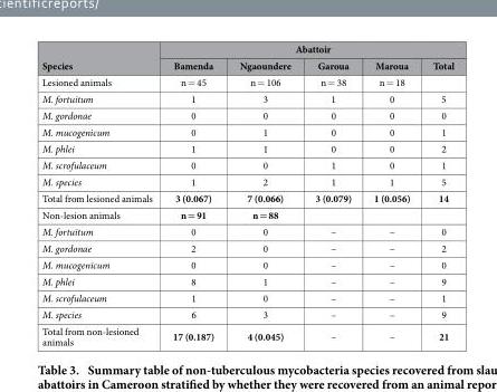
<table><thead><tr><td rowspan="2">Species</td><td colspan="5">Abattoir</td></tr><tr><td>Bamenda</td><td>Ngaoundere</td><td>Garoua</td><td>Maroua</td><td>Total</td></tr></thead><tbody><tr><td>Lesioned animals</td><td>n = 45</td><td>n = 106</td><td>n = 38</td><td>n = 18</td><td></td></tr><tr><td>M. fortuitum</td><td>1</td><td>3</td><td>1</td><td>0</td><td>5</td></tr><tr><td>M. gordonae</td><td>0</td><td>0</td><td>0</td><td>0</td><td>0</td></tr><tr><td>M. mucogenicum</td><td>0</td><td>1</td><td>0</td><td>0</td><td>1</td></tr><tr><td>M. phlei</td><td>1</td><td>1</td><td>0</td><td>0</td><td>2</td></tr><tr><td>M. scrofulaceum</td><td>0</td><td>0</td><td>1</td><td>0</td><td>1</td></tr><tr><td>M. species</td><td>1</td><td>2</td><td>1</td><td>1</td><td>5</td></tr><tr><td>Total from lesioned animals</td><td>3 (0.067)</td><td>7 (0.066)</td><td>3 (0.079)</td><td>1 (0.056)</td><td>14</td></tr><tr><td>Non-lesion animals</td><td>n = 91</td><td>n = 88</td><td></td><td></td><td></td></tr><tr><td>M. fortuitum</td><td>0</td><td>0</td><td>–</td><td>–</td><td>0</td></tr><tr><td>M. gordonae</td><td>2</td><td>0</td><td>–</td><td>–</td><td>2</td></tr><tr><td>M. mucogenicum</td><td>0</td><td>0</td><td>–</td><td>–</td><td>0</td></tr><tr><td>M. phlei</td><td>8</td><td>1</td><td>–</td><td>–</td><td>9</td></tr><tr><td>M. scrofulaceum</td><td>1</td><td>0</td><td>–</td><td>–</td><td>1</td></tr><tr><td>M. species</td><td>6</td><td>3</td><td>–</td><td>–</td><td>9</td></tr><tr><td>Total from non-lesioned animals</td><td>17 (0.187)</td><td>4 (0.045)</td><td>–</td><td>–</td><td>21</td></tr></tbody></table>